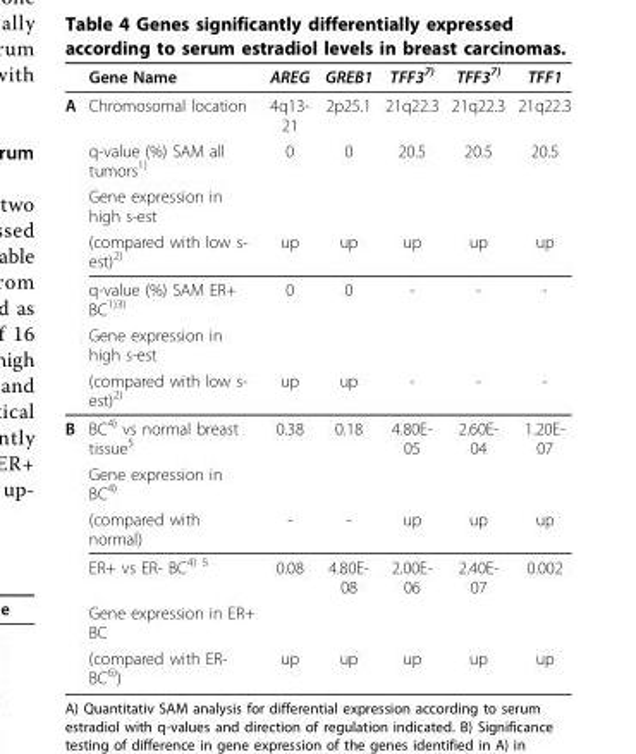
<table><thead><tr><td></td><td>Gene Name</td><td>AREG</td><td>GREB1</td><td>TFF3<sup>7)</sup></td><td>TFF3<sup>7)</sup></td><td>TFF1</td></tr></thead><tbody><tr><td rowspan="7">A</td><td>Chromosomal location</td><td>4q13- 21</td><td>2p25.1</td><td>21q22.3</td><td>21q22.3</td><td>21q22.3</td></tr><tr><td>q-value (%) SAM all tumors<sup>1)</sup></td><td>0</td><td>0</td><td>20.5</td><td>20.5</td><td>20.5</td></tr><tr><td>Gene expression in high s-est</td><td></td><td></td><td></td><td></td><td></td></tr><tr><td>(compared with low s- est)<sup>2)</sup></td><td>up</td><td>up</td><td>up</td><td>up</td><td>up</td></tr><tr><td>q-value (%) SAM ER+ BC<sup>1)3)</sup></td><td>0</td><td>0</td><td>-</td><td>-</td><td>-</td></tr><tr><td>Gene expression in high s-est</td><td></td><td></td><td></td><td></td><td></td></tr><tr><td>(compared with low s- est)<sup>2)</sup></td><td>up</td><td>up</td><td>-</td><td>-</td><td>-</td></tr><tr><td rowspan="6">B</td><td>BC<sup>4)</sup> vs normal breast tissue<sup>5</sup></td><td>0.38</td><td>0.18</td><td>4.80E- 05</td><td>2.60E- 04</td><td>1.20E- 07</td></tr><tr><td>Gene expression in BC<sup>4)</sup></td><td></td><td></td><td></td><td></td><td></td></tr><tr><td>(compared with normal)</td><td>-</td><td>-</td><td>up</td><td>up</td><td>up</td></tr><tr><td>ER+ vs ER- BC<sup>4) 5</sup></td><td>0.08</td><td>4.80E- 08</td><td>2.00E- 06</td><td>2.40E- 07</td><td>0.002</td></tr><tr><td>Gene expression in ER+ BC</td><td></td><td></td><td></td><td></td><td></td></tr><tr><td>(compared with ER- BC<sup>6)</sup>)</td><td>up</td><td>up</td><td>up</td><td>up</td><td>up</td></tr></tbody></table>